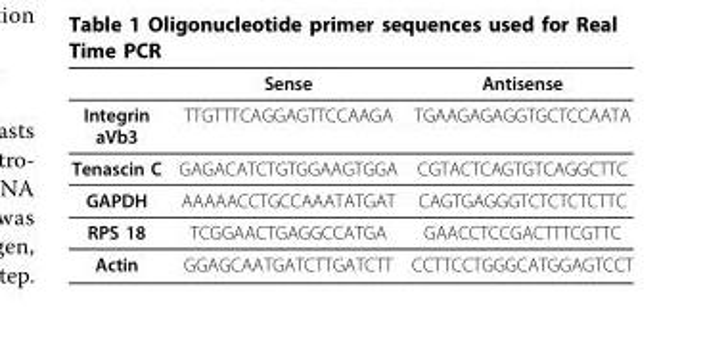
<table><thead><tr><td></td><td>Sense</td><td>Antisense</td></tr></thead><tbody><tr><td>Integrin aVb3</td><td>TTGTTTCAGGAGTTCCAAGA</td><td>TGAAGAGAGGTGCTCCAATA</td></tr><tr><td>Tenascin C</td><td>GAGACATCTGTGGAAGTGGA</td><td>CGTACTCAGTGTCAGGCTTC</td></tr><tr><td>GAPDH</td><td>AAAAACCTGCCAAATATGAT</td><td>CAGTGAGGGTCTCTCTCTTC</td></tr><tr><td>RPS 18</td><td>TCGGAACTGAGGCCATGA</td><td>GAACCTCCGACTTTCGTTC</td></tr><tr><td>Actin</td><td>GGAGCAATGATCTTGATCTT</td><td>CCTTCCTGGGCATGGAGTCCT</td></tr></tbody></table>